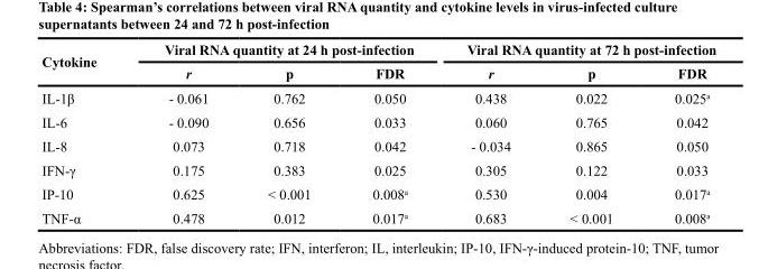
<table><thead><tr><td rowspan="2">Cytokine</td><td colspan="3">Viral RNA quantity at 24 h post-infection</td><td colspan="3">Viral RNA quantity at 72 h post-infection</td></tr><tr><td>r</td><td>p</td><td>FDR</td><td>r</td><td>p</td><td>FDR</td></tr></thead><tbody><tr><td>IL-1β</td><td>- 0.061</td><td>0.762</td><td>0.050</td><td>0.438</td><td>0.022</td><td>0.025<sup>a</sup></td></tr><tr><td>IL-6</td><td>- 0.090</td><td>0.656</td><td>0.033</td><td>0.060</td><td>0.765</td><td>0.042</td></tr><tr><td>IL-8</td><td>0.073</td><td>0.718</td><td>0.042</td><td>- 0.034</td><td>0.865</td><td>0.050</td></tr><tr><td>IFN-γ</td><td>0.175</td><td>0.383</td><td>0.025</td><td>0.305</td><td>0.122</td><td>0.033</td></tr><tr><td>IP-10</td><td>0.625</td><td>&lt; 0.001</td><td>0.008<sup>a</sup></td><td>0.530</td><td>0.004</td><td>0.017<sup>a</sup></td></tr><tr><td>TNF-α</td><td>0.478</td><td>0.012</td><td>0.017<sup>a</sup></td><td>0.683</td><td>&lt; 0.001</td><td>0.008<sup>a</sup></td></tr></tbody></table>